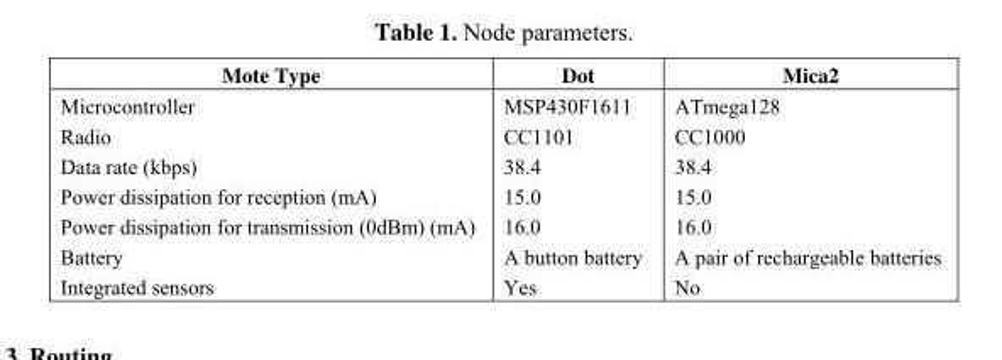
<table><thead><tr><td>Mote Type</td><td>Dot</td><td>Mica2</td></tr></thead><tbody><tr><td>Microcontroller</td><td>MSP430F1611</td><td>ATmega128</td></tr><tr><td>Radio</td><td>CC1101</td><td>CC1000</td></tr><tr><td>Data rate (kbps)</td><td>38.4</td><td>38.4</td></tr><tr><td>Power dissipation for reception (mA)</td><td>15.0</td><td>15.0</td></tr><tr><td>Power dissipation for transmission (0dBm) (mA)</td><td>16.0</td><td>16.0</td></tr><tr><td>Battery</td><td>A button battery</td><td>A pair of rechargeable batteries</td></tr><tr><td>Integrated sensors</td><td>Yes</td><td>No</td></tr></tbody></table>